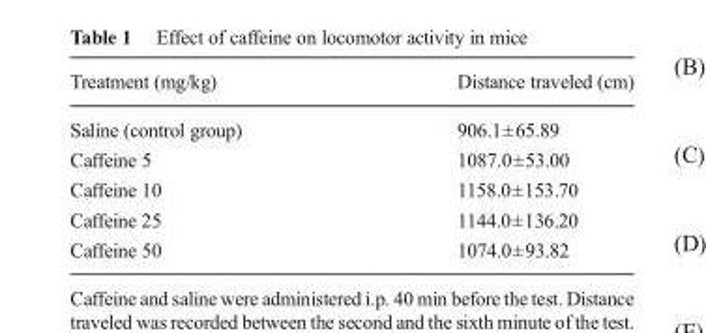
<table><thead><tr><td>Treatment (mg/kg)</td><td>Distance traveled (cm)</td></tr></thead><tbody><tr><td>Saline (control group)</td><td>906.1±65.89</td></tr><tr><td>Caffeine 5</td><td>1087.0±53.00</td></tr><tr><td>Caffeine 10</td><td>1158.0±153.70</td></tr><tr><td>Caffeine 25</td><td>1144.0±136.20</td></tr><tr><td>Caffeine 50</td><td>1074.0±93.82</td></tr></tbody></table>